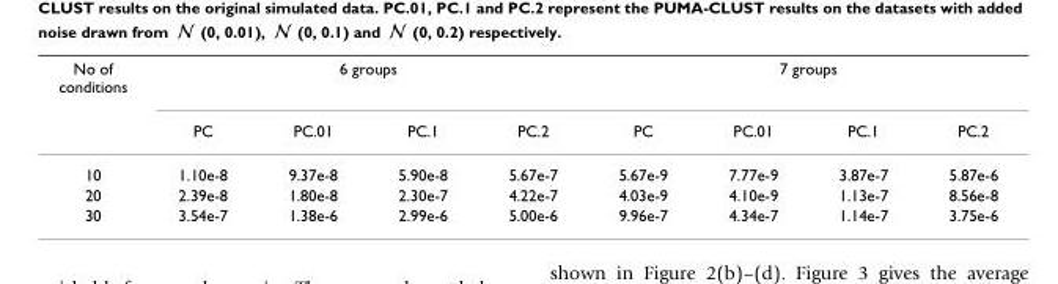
<table><thead><tr><td rowspan="2">No of conditions</td><td colspan="4">6 groups</td><td colspan="4">7 groups</td></tr><tr><td>PC</td><td>PC.01</td><td>PC.1</td><td>PC.2</td><td>PC</td><td>PC.01</td><td>PC.1</td><td>PC.2</td></tr></thead><tbody><tr><td>10</td><td>1.10e-8</td><td>9.37e-8</td><td>5.90e-8</td><td>5.67e-7</td><td>5.67e-9</td><td>7.77e-9</td><td>3.87e-7</td><td>5.87e-6</td></tr><tr><td>20</td><td>2.39e-8</td><td>1.80e-8</td><td>2.30e-7</td><td>4.22e-7</td><td>4.03e-9</td><td>4.10e-9</td><td>1.13e-7</td><td>8.56e-8</td></tr><tr><td>30</td><td>3.54e-7</td><td>1.38e-6</td><td>2.99e-6</td><td>5.00e-6</td><td>9.96e-7</td><td>4.34e-7</td><td>1.14e-7</td><td>3.75e-6</td></tr></tbody></table>